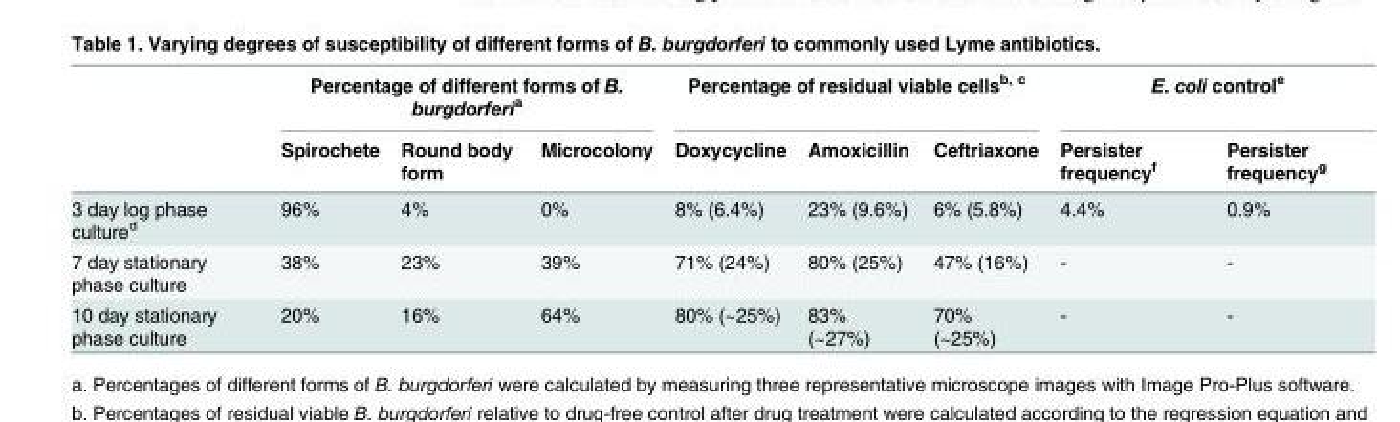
<table><thead><tr><td rowspan="2"></td><td colspan="3">Percentage of different forms of B. burgdorferi<sup>a</sup></td><td colspan="3">Percentage of residual viable cells<sup>b, c</sup></td><td colspan="2">E. coli control<sup>e</sup></td></tr><tr><td>Spirochete</td><td>Round body form</td><td>Microcolony</td><td>Doxycycline</td><td>Amoxicillin</td><td>Ceftriaxone</td><td>Persister frequency<sup>f</sup></td><td>Persister frequency<sup>g</sup></td></tr></thead><tbody><tr><td>3 day log phase culture<sup>d</sup></td><td>96%</td><td>4%</td><td>0%</td><td>8% (6.4%)</td><td>23% (9.6%)</td><td>6% (5.8%)</td><td>4.4%</td><td>0.9%</td></tr><tr><td>7 day stationary phase culture</td><td>38%</td><td>23%</td><td>39%</td><td>71% (24%)</td><td>80% (25%)</td><td>47% (16%)</td><td>-</td><td>-</td></tr><tr><td>10 day stationary phase culture</td><td>20%</td><td>16%</td><td>64%</td><td>80% (~25%)</td><td>83% (~27%)</td><td>70% (~25%)</td><td>-</td><td>-</td></tr></tbody></table>